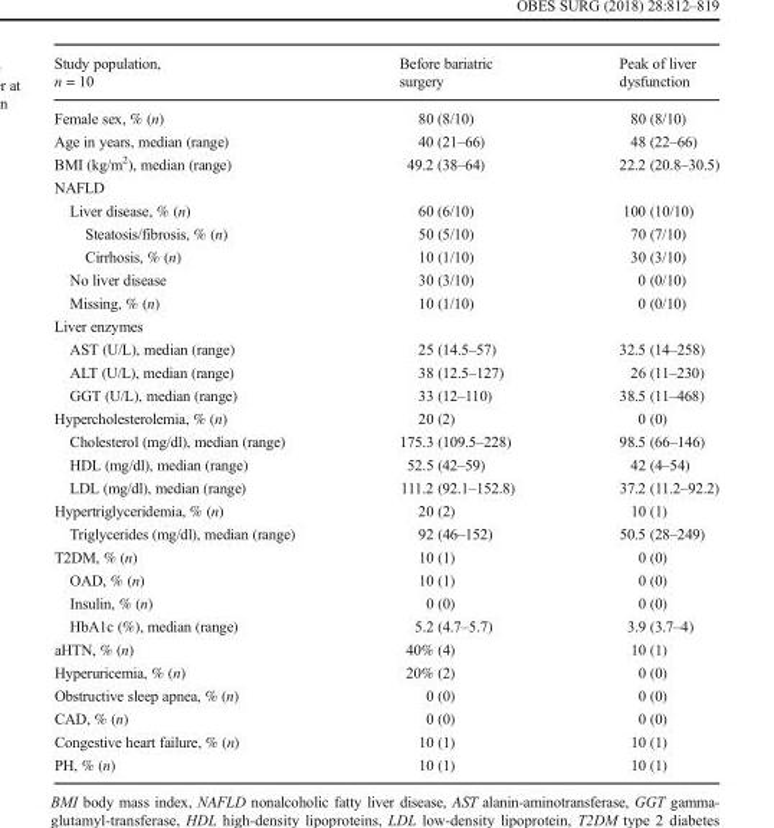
<table><thead><tr><td>Study population, n = 10</td><td>Before bariatric surgery</td><td>Peak of liver dysfunction</td></tr></thead><tbody><tr><td>Female sex, % (n)</td><td>80 (8/10)</td><td>80 (8/10)</td></tr><tr><td>Age in years, median (range)</td><td>40 (21–66)</td><td>48 (22–66)</td></tr><tr><td>BMI (kg/m<sup>2</sup>), median (range)</td><td>49.2 (38–64)</td><td>22.2 (20.8–30.5)</td></tr><tr><td colspan="3">NAFLD</td></tr><tr><td>Liver disease, % (n)</td><td>60 (6/10)</td><td>100 (10/10)</td></tr><tr><td>Steatosis/fibrosis, % (n)</td><td>50 (5/10)</td><td>70 (7/10)</td></tr><tr><td>Cirrhosis, % (n)</td><td>10 (1/10)</td><td>30 (3/10)</td></tr><tr><td>No liver disease</td><td>30 (3/10)</td><td>0 (0/10)</td></tr><tr><td>Missing, % (n)</td><td>10 (1/10)</td><td>0 (0/10)</td></tr><tr><td colspan="3">Liver enzymes</td></tr><tr><td>AST (U/L), median (range)</td><td>25 (14.5–57)</td><td>32.5 (14–258)</td></tr><tr><td>ALT (U/L), median (range)</td><td>38 (12.5–127)</td><td>26 (11–230)</td></tr><tr><td>GGT (U/L), median (range)</td><td>33 (12–110)</td><td>38.5 (11–468)</td></tr><tr><td>Hypercholesterolemia, % (n)</td><td>20 (2)</td><td>0 (0)</td></tr><tr><td>Cholesterol (mg/dl), median (range)</td><td>175.3 (109.5–228)</td><td>98.5 (66–146)</td></tr><tr><td>HDL (mg/dl), median (range)</td><td>52.5 (42–59)</td><td>42 (4–54)</td></tr><tr><td>LDL (mg/dl), median (range)</td><td>111.2 (92.1–152.8)</td><td>37.2 (11.2–92.2)</td></tr><tr><td>Hypertriglyceridemia, % (n)</td><td>20 (2)</td><td>10 (1)</td></tr><tr><td>Triglycerides (mg/dl), median (range)</td><td>92 (46–152)</td><td>50.5 (28–249)</td></tr><tr><td>T2DM, % (n)</td><td>10 (1)</td><td>0 (0)</td></tr><tr><td>OAD, % (n)</td><td>10 (1)</td><td>0 (0)</td></tr><tr><td>Insulin, % (n)</td><td>0 (0)</td><td>0 (0)</td></tr><tr><td>HbA1c (%), median (range)</td><td>5.2 (4.7–5.7)</td><td>3.9 (3.7–4)</td></tr><tr><td>aHTN, % (n)</td><td>40% (4)</td><td>10 (1)</td></tr><tr><td>Hyperuricemia, % (n)</td><td>20% (2)</td><td>0 (0)</td></tr><tr><td>Obstructive sleep apnea, % (n)</td><td>0 (0)</td><td>0 (0)</td></tr><tr><td>CAD, % (n)</td><td>0 (0)</td><td>0 (0)</td></tr><tr><td>Congestive heart failure, % (n)</td><td>10 (1)</td><td>10 (1)</td></tr><tr><td>PH, % (n)</td><td>10 (1)</td><td>10 (1)</td></tr></tbody></table>